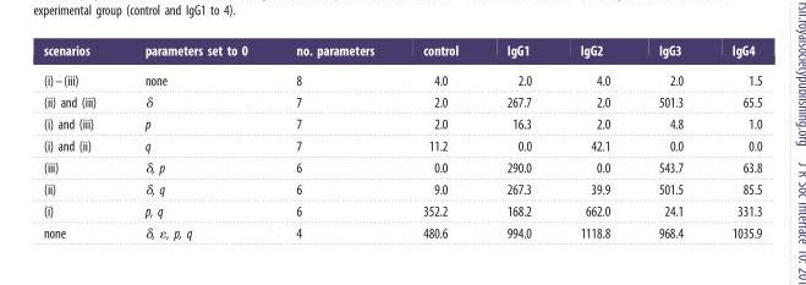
<table><thead><tr><td>scenarios</td><td>parameters set to 0</td><td>no. parameters</td><td>control</td><td>IgG1</td><td>IgG2</td><td>IgG3</td><td>IgG4</td></tr></thead><tbody><tr><td>(i)–(iii)</td><td>none</td><td>8</td><td>4.0</td><td>2.0</td><td>4.0</td><td>2.0</td><td>1.5</td></tr><tr><td>(ii) and (iii)</td><td>δ</td><td>7</td><td>2.0</td><td>267.7</td><td>2.0</td><td>501.3</td><td>65.5</td></tr><tr><td>(i) and (iii)</td><td>p</td><td>7</td><td>2.0</td><td>16.3</td><td>2.0</td><td>4.8</td><td>1.0</td></tr><tr><td>(i) and (ii)</td><td>q</td><td>7</td><td>11.2</td><td>0.0</td><td>42.1</td><td>0.0</td><td>0.0</td></tr><tr><td>(iii)</td><td>δ, p</td><td>6</td><td>0.0</td><td>290.0</td><td>0.0</td><td>543.7</td><td>63.8</td></tr><tr><td>(ii)</td><td>δ, q</td><td>6</td><td>9.0</td><td>267.3</td><td>39.9</td><td>501.5</td><td>85.5</td></tr><tr><td>(i)</td><td>p, q</td><td>6</td><td>352.2</td><td>168.2</td><td>662.0</td><td>24.1</td><td>331.3</td></tr><tr><td>none</td><td>d, 1, p, q</td><td>4</td><td>480.6</td><td>994.0</td><td>1118.8</td><td>968.4</td><td>1035.9</td></tr></tbody></table>